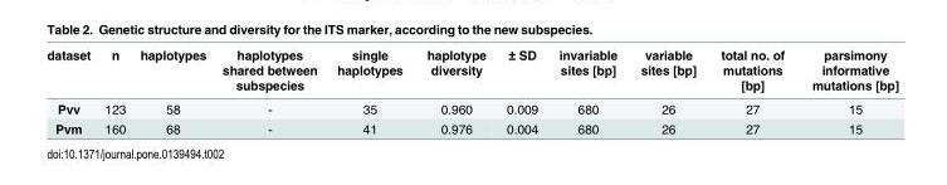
<table><thead><tr><td>dataset</td><td>n</td><td>haplotypes</td><td>haplotypes shared between subspecies</td><td>single haplotypes</td><td>haplotype diversity</td><td>± SD</td><td>invariable sites [bp]</td><td>variable sites [bp]</td><td>total no. of mutations [bp]</td><td>parsimony informative mutations [bp]</td></tr></thead><tbody><tr><td>Pvv</td><td>123</td><td>58</td><td>-</td><td>35</td><td>0.960</td><td>0.009</td><td>680</td><td>26</td><td>27</td><td>15</td></tr><tr><td>Pvm</td><td>160</td><td>68</td><td>-</td><td>41</td><td>0.976</td><td>0.004</td><td>680</td><td>26</td><td>27</td><td>15</td></tr></tbody></table>